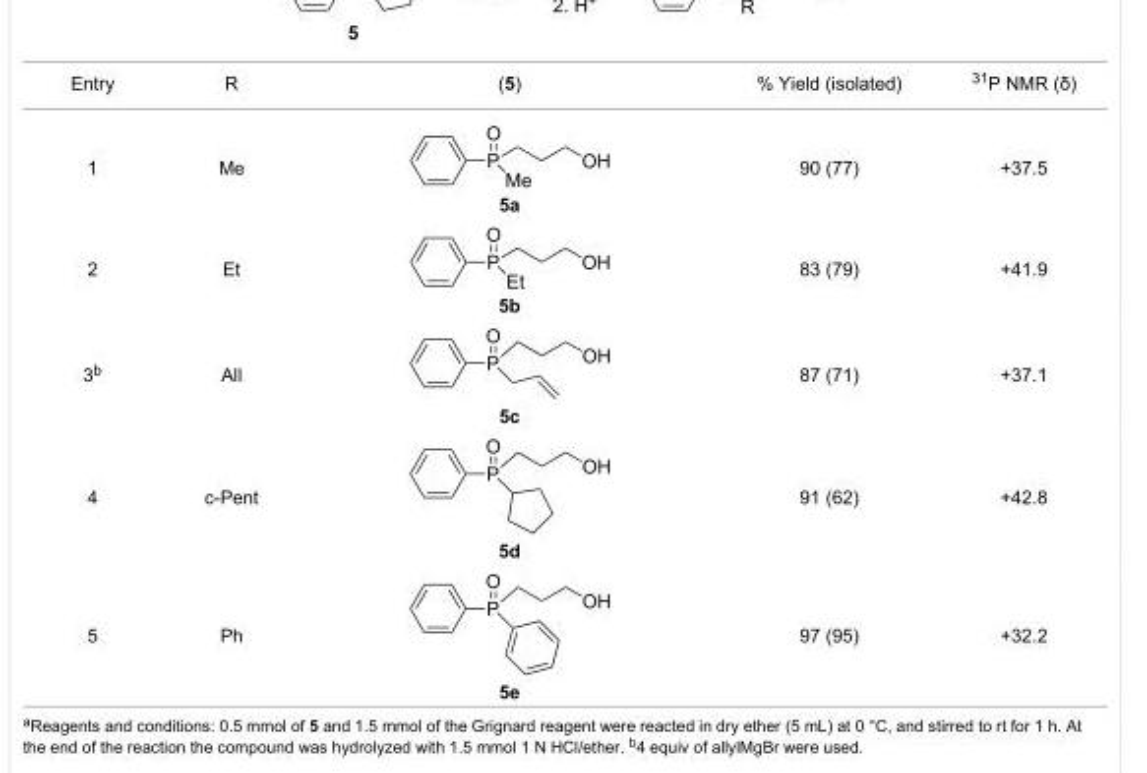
<table><tbody><tr><td>Entry</td><td>R</td><td>(5)</td><td>% Yield (isolated)</td><td><sup>31</sup>P NMR (δ)</td></tr><tr><td>1</td><td>Me</td><td>5a</td><td>90 (77)</td><td>+37.5</td></tr><tr><td>2</td><td>Et</td><td>5b</td><td>83 (79)</td><td>+41.9</td></tr><tr><td>3<sup>b</sup></td><td>All</td><td>5c</td><td>87 (71)</td><td>+37.1</td></tr><tr><td>4</td><td>c-Pent</td><td>5d</td><td>91 (62)</td><td>+42.8</td></tr><tr><td>5</td><td>Ph</td><td>5e</td><td>97 (95)</td><td>+32.2</td></tr></tbody></table>